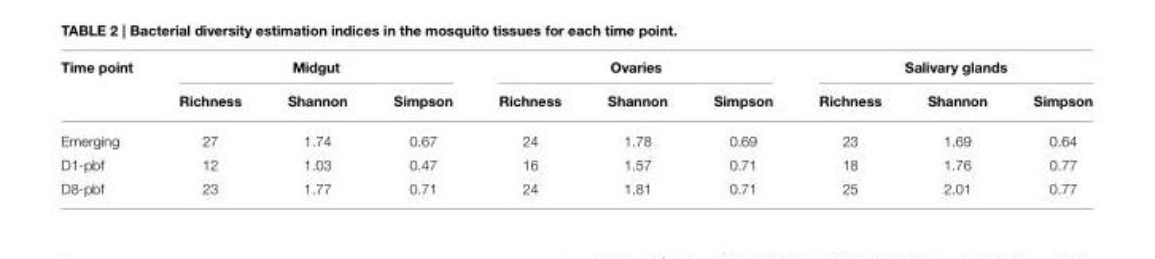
<table><thead><tr><td rowspan="2">Time point</td><td colspan="3">Midgut</td><td colspan="3">Ovaries</td><td colspan="3">Salivary glands</td></tr><tr><td>Richness</td><td>Shannon</td><td>Simpson</td><td>Richness</td><td>Shannon</td><td>Simpson</td><td>Richness</td><td>Shannon</td><td>Simpson</td></tr></thead><tbody><tr><td>Emerging</td><td>27</td><td>1.74</td><td>0.67</td><td>24</td><td>1.78</td><td>0.69</td><td>23</td><td>1.69</td><td>0.64</td></tr><tr><td>D1-pbf</td><td>12</td><td>1.03</td><td>0.47</td><td>16</td><td>1.57</td><td>0.71</td><td>18</td><td>1.76</td><td>0.77</td></tr><tr><td>D8-pbf</td><td>23</td><td>1.77</td><td>0.71</td><td>24</td><td>1.81</td><td>0.71</td><td>25</td><td>2.01</td><td>0.77</td></tr></tbody></table>